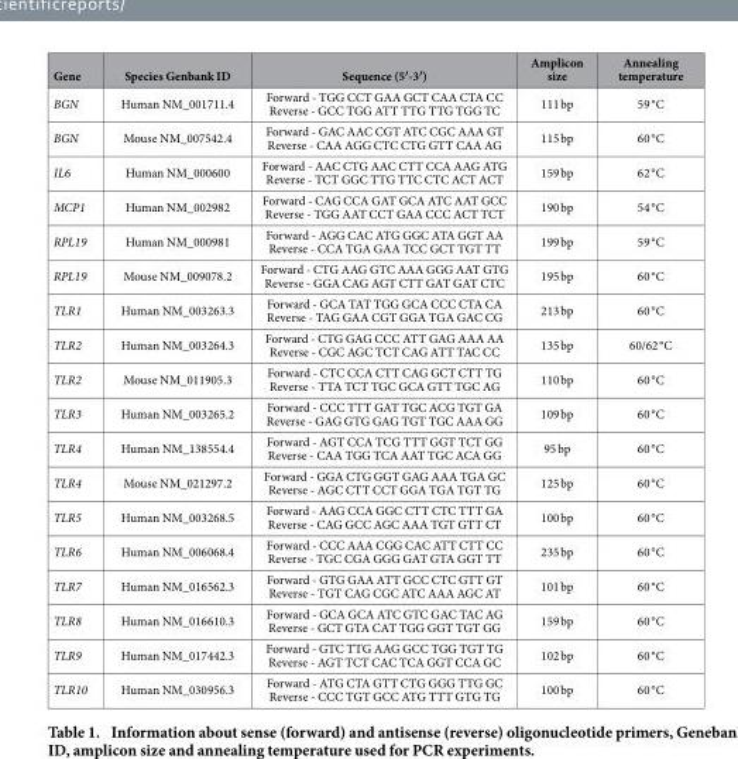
<table><thead><tr><td>Gene</td><td>Species Genbank ID</td><td>Sequence (5′-3′)</td><td>Amplicon size</td><td>Annealing temperature</td></tr></thead><tbody><tr><td>BGN</td><td>Human NM_001711.4</td><td>Forward - TGG CCT GAA GCT CAA CTA CC Reverse - GCC TGG ATT TTG TTG TGG TC</td><td>111 bp</td><td>59 °C</td></tr><tr><td>BGN</td><td>Mouse NM_007542.4</td><td>Forward - GAC AAC CGT ATC CGC AAA GT Reverse - CAA AGG CTC CTG GTT CAA AG</td><td>115 bp</td><td>60 °C</td></tr><tr><td>IL6</td><td>Human NM_000600</td><td>Forward - AAC CTG AAC CTT CCA AAG ATG Reverse - TCT GGC TTG TTC CTC ACT ACT</td><td>159 bp</td><td>62 °C</td></tr><tr><td>MCP1</td><td>Human NM_002982</td><td>Forward - CAG CCA GAT GCA ATC AAT GCC Reverse - TGG AAT CCT GAA CCC ACT TCT</td><td>190 bp</td><td>54 °C</td></tr><tr><td>RPL19</td><td>Human NM_000981</td><td>Forward - AGG CAC ATG GGC ATA GGT AA Reverse - CCA TGA GAA TCC GCT TGT TT</td><td>199 bp</td><td>59 °C</td></tr><tr><td>RPL19</td><td>Mouse NM_009078.2</td><td>Forward - CTG AAG GTC AAA GGG AAT GTG Reverse - GGA CAG AGT CTT GAT GAT CTC</td><td>195 bp</td><td>60 °C</td></tr><tr><td>TLR1</td><td>Human NM_003263.3</td><td>Forward - GCA TAT TGG GCA CCC CTA CA Reverse - TAG GAA CGT GGA TGA GAC CG</td><td>213 bp</td><td>60 °C</td></tr><tr><td>TLR2</td><td>Human NM_003264.3</td><td>Forward - CTG GAG CCC ATT GAG AAA AA Reverse - CGC AGC TCT CAG ATT TAC CC</td><td>135 bp</td><td>60/62 °C</td></tr><tr><td>TLR2</td><td>Mouse NM_011905.3</td><td>Forward - CTC CCA CTT CAG GCT CTT TG Reverse - TTA TCT TGC GCA GTT TGC AG</td><td>110 bp</td><td>60 °C</td></tr><tr><td>TLR3</td><td>Human NM_003265.2</td><td>Forward - CCC TTT GAT TGC ACG TGT GA Reverse - GAG GTG GAG TGT TGC AAA GG</td><td>109 bp</td><td>60 °C</td></tr><tr><td>TLR4</td><td>Human NM_138554.4</td><td>Forward - AGT CCA TCG TTT GGT TCT GG Reverse - CAA TGG TCA AAT TGC ACA GG</td><td>95 bp</td><td>60 °C</td></tr><tr><td>TLR4</td><td>Mouse NM_021297.2</td><td>Forward - GGA CTG GGT GAG AAA TGA GC Reverse - AGC CTT CCT GGA TGA TGT TG</td><td>125 bp</td><td>60 °C</td></tr><tr><td>TLR5</td><td>Human NM_003268.5</td><td>Forward - AAG CCA GGC CTT CTC TTT GA Reverse - CAG GCC AGC AAA TGT GTT CT</td><td>100 bp</td><td>60 °C</td></tr><tr><td>TLR6</td><td>Human NM_006068.4</td><td>Forward - CCC AAA CGG CAC ATT CTT CC Reverse - TGC CGA GGG GAT GTA GGT TT</td><td>235 bp</td><td>60 °C</td></tr><tr><td>TLR7</td><td>Human NM_016562.3</td><td>Forward - GTG GAA ATT GCC CTC GTT GT Reverse - TGT CAG CGC ATC AAA AGC AT</td><td>101 bp</td><td>60 °C</td></tr><tr><td>TLR8</td><td>Human NM_016610.3</td><td>Forward - GCA GCA ATC GTC GAC TAC AG Reverse - GCT GTA CAT TGG GGT TGT GG</td><td>159 bp</td><td>60 °C</td></tr><tr><td>TLR9</td><td>Human NM_017442.3</td><td>Forward - GTC TTG AAG GCC TGG TGT TG Reverse - AGT TCT CAC TCA GGT CCA GC</td><td>102 bp</td><td>60 °C</td></tr><tr><td>TLR10</td><td>Human NM_030956.3</td><td>Forward - ATG CTA GTT CTG GGG TTG GC Reverse - CCC TGT GCC ATG TTT GTG TG</td><td>100 bp</td><td>60 °C</td></tr></tbody></table>